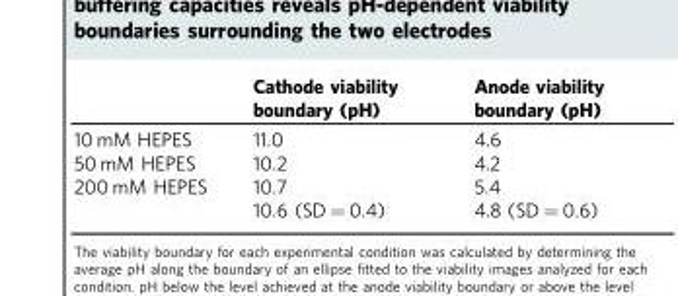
<table><thead><tr><td></td><td>Cathode viability boundary (pH)</td><td>Anode viability boundary (pH)</td></tr></thead><tbody><tr><td>10 mM HEPES</td><td>11.0</td><td>4.6</td></tr><tr><td>50 mM HEPES</td><td>10.2</td><td>4.2</td></tr><tr><td rowspan="2">200 mM HEPES</td><td>10.7</td><td>5.4</td></tr><tr><td>10.6 (SD = 0.4)</td><td>4.8 (SD = 0.6)</td></tr></tbody></table>